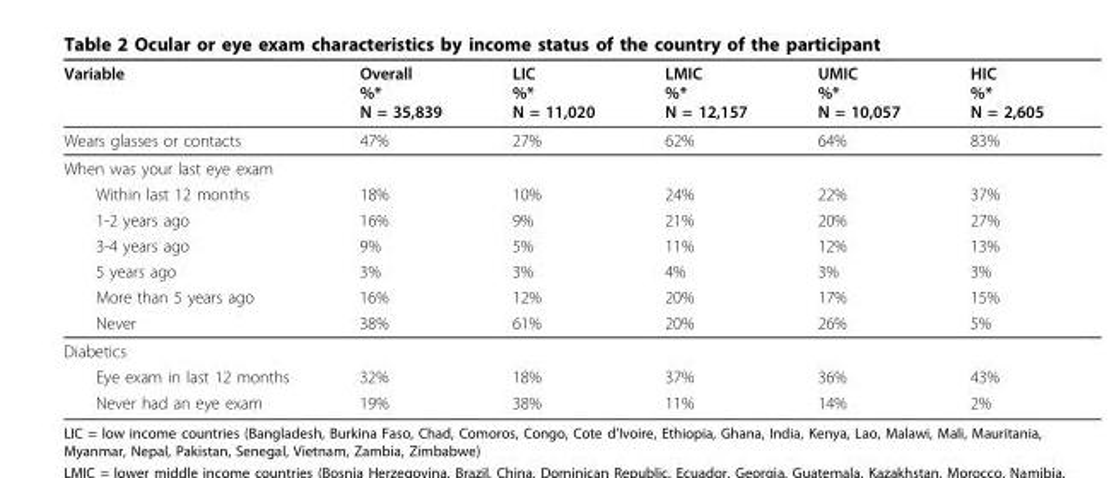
<table><thead><tr><td>Variable</td><td>Overall %* N = 35,839</td><td>LIC %* N = 11,020</td><td>LMIC %* N = 12,157</td><td>UMIC %* N = 10,057</td><td>HIC %* N = 2,605</td></tr></thead><tbody><tr><td>Wears glasses or contacts</td><td>47%</td><td>27%</td><td>62%</td><td>64%</td><td>83%</td></tr><tr><td colspan="6">When was your last eye exam</td></tr><tr><td>Within last 12 months</td><td>18%</td><td>10%</td><td>24%</td><td>22%</td><td>37%</td></tr><tr><td>1-2 years ago</td><td>16%</td><td>9%</td><td>21%</td><td>20%</td><td>27%</td></tr><tr><td>3-4 years ago</td><td>9%</td><td>5%</td><td>11%</td><td>12%</td><td>13%</td></tr><tr><td>5 years ago</td><td>3%</td><td>3%</td><td>4%</td><td>3%</td><td>3%</td></tr><tr><td>More than 5 years ago</td><td>16%</td><td>12%</td><td>20%</td><td>17%</td><td>15%</td></tr><tr><td>Never</td><td>38%</td><td>61%</td><td>20%</td><td>26%</td><td>5%</td></tr><tr><td colspan="6">Diabetics</td></tr><tr><td>Eye exam in last 12 months</td><td>32%</td><td>18%</td><td>37%</td><td>36%</td><td>43%</td></tr><tr><td>Never had an eye exam</td><td>19%</td><td>38%</td><td>11%</td><td>14%</td><td>2%</td></tr></tbody></table>